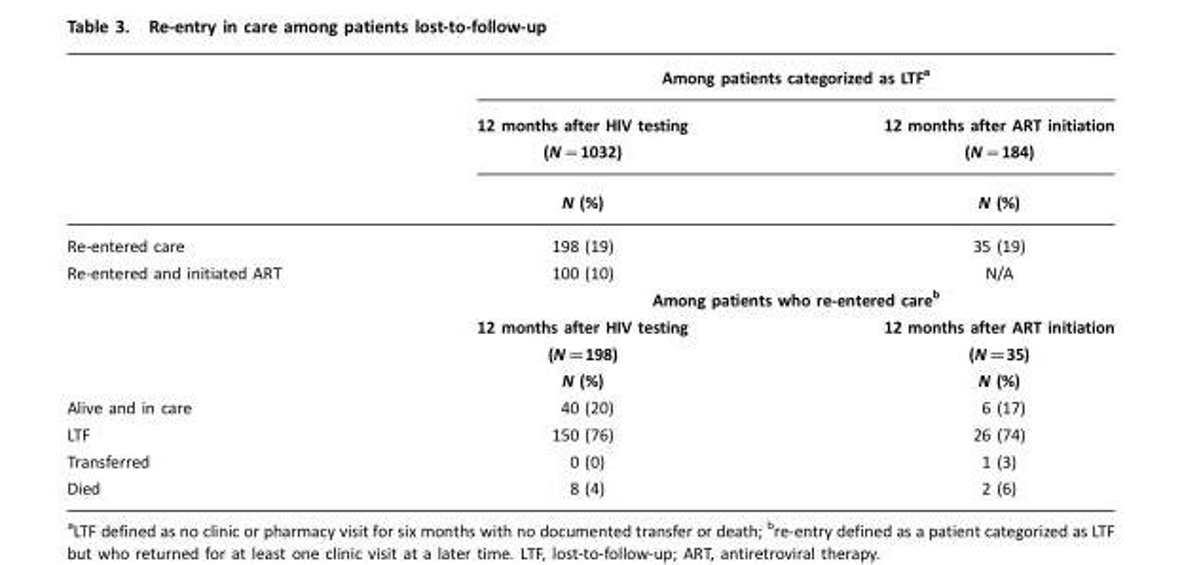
<table><thead><tr><td rowspan="3"></td><td colspan="2">Among patients categorized as LTF<sup>a</sup></td></tr><tr><td rowspan="2">12 months after HIV testing (N=1032) N (%)</td><td rowspan="2">12 months after ART initiation (N=184) N (%)</td></tr><tr></tr></thead><tbody><tr><td>Re-entered care</td><td>198 (19)</td><td>35 (19)</td></tr><tr><td rowspan="4">Re-entered and initiated ART</td><td>100 (10)</td><td>N/A</td></tr><tr><td colspan="2">Among patients who re-entered care<sup>b</sup></td></tr><tr><td>12 months after HIV testing (N=198)</td><td>12 months after ART initiation (N=35)</td></tr><tr><td>N (%)</td><td>N (%)</td></tr><tr><td>Alive and in care</td><td>40 (20)</td><td>6 (17)</td></tr><tr><td>LTF</td><td>150 (76)</td><td>26 (74)</td></tr><tr><td>Transferred</td><td>0 (0)</td><td>1 (3)</td></tr><tr><td>Died</td><td>8 (4)</td><td>2 (6)</td></tr></tbody></table>